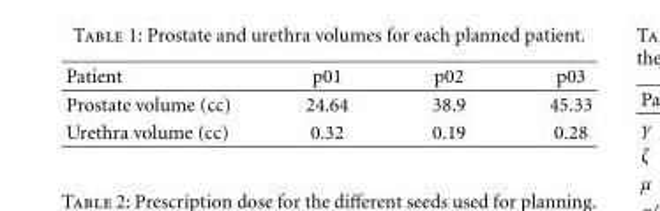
<table><thead><tr><td>Patient</td><td>p01</td><td>p02</td><td>p03</td></tr></thead><tbody><tr><td>Prostate volume (cc)</td><td>24.64</td><td>38.9</td><td>45.33</td></tr><tr><td>Urethra volume (cc)</td><td>0.32</td><td>0.19</td><td>0.28</td></tr></tbody></table>